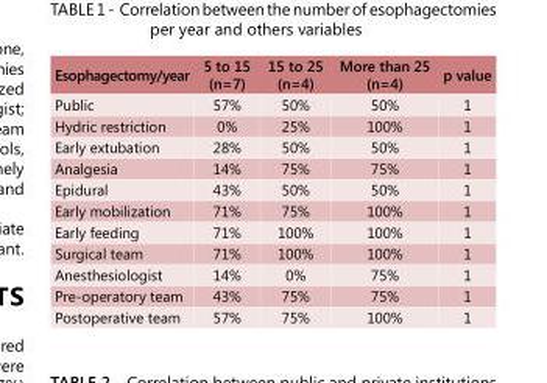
<table><tbody><tr><td>Esophagectomy/year</td><td>5 to 15 (n=7)</td><td>15 to 25 (n=4)</td><td>More than 25 (n=4)</td><td>p value</td></tr><tr><td>Public</td><td>57%</td><td>50%</td><td>50%</td><td>1</td></tr><tr><td>Hydric restriction</td><td>0%</td><td>25%</td><td>100%</td><td>1</td></tr><tr><td>Early extubation</td><td>28%</td><td>50%</td><td>50%</td><td>1</td></tr><tr><td>Analgesia</td><td>14%</td><td>75%</td><td>75%</td><td>1</td></tr><tr><td>Epidural</td><td>43%</td><td>50%</td><td>50%</td><td>1</td></tr><tr><td>Early mobilization</td><td>71%</td><td>75%</td><td>100%</td><td>1</td></tr><tr><td>Early feeding</td><td>71%</td><td>100%</td><td>100%</td><td>1</td></tr><tr><td>Surgical team</td><td>71%</td><td>100%</td><td>100%</td><td>1</td></tr><tr><td>Anesthesiologist</td><td>14%</td><td>0%</td><td>75%</td><td>1</td></tr><tr><td>Pre-operatory team</td><td>43%</td><td>75%</td><td>75%</td><td>1</td></tr><tr><td>Postoperative team</td><td>57%</td><td>75%</td><td>100%</td><td>1</td></tr></tbody></table>